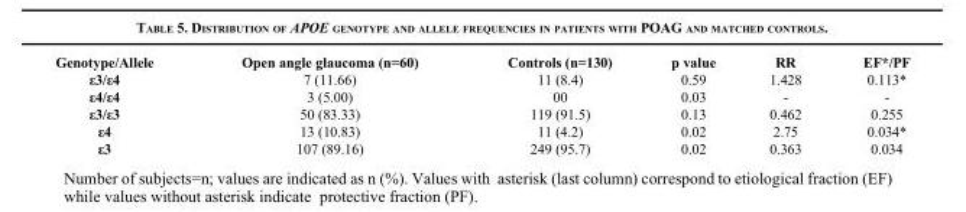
<table><thead><tr><td>Genotype/Allele</td><td>Open angle glaucoma (n=60)</td><td>Controls (n=130)</td><td>p value</td><td>RR</td><td>EF*/PF</td></tr></thead><tbody><tr><td>ε3/ε4</td><td>7 (11.66)</td><td>11 (8.4)</td><td>0.59</td><td>1.428</td><td>0.113*</td></tr><tr><td>ε4/ε4</td><td>3 (5.00)</td><td>00</td><td>0.03</td><td>-</td><td>-</td></tr><tr><td>ε3/ε3</td><td>50 (83.33)</td><td>119 (91.5)</td><td>0.13</td><td>0.462</td><td>0.255</td></tr><tr><td>ε4</td><td>13 (10.83)</td><td>11 (4.2)</td><td>0.02</td><td>2.75</td><td>0.034*</td></tr><tr><td>ε3</td><td>107 (89.16)</td><td>249 (95.7)</td><td>0.02</td><td>0.363</td><td>0.034</td></tr></tbody></table>